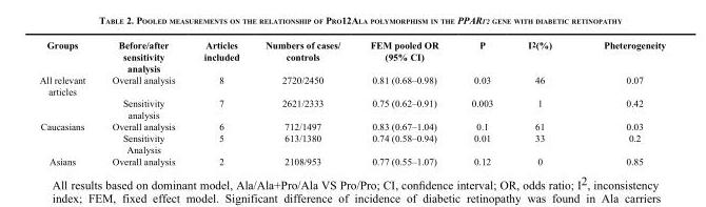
<table><thead><tr><td>Groups</td><td>Before/after sensitivity analysis</td><td>Articles included</td><td>Numbers of cases/ controls</td><td>FEM pooled OR (95% CI)</td><td>P</td><td>I<sup>2</sup>(%)</td><td>Pheterogeneity</td></tr></thead><tbody><tr><td rowspan="2">All relevant articles</td><td>Overall analysis</td><td>8</td><td>2720/2450</td><td>0.81 (0.68–0.98)</td><td>0.03</td><td>46</td><td>0.07</td></tr><tr><td>Sensitivity analysis</td><td>7</td><td>2621/2333</td><td>0.75 (0.62–0.91)</td><td>0.003</td><td>1</td><td>0.42</td></tr><tr><td rowspan="2">Caucasians</td><td>Overall analysis</td><td>6</td><td>712/1497</td><td>0.83 (0.67–1.04)</td><td>0.1</td><td>61</td><td>0.03</td></tr><tr><td>Sensitivity Analysis</td><td>5</td><td>613/1380</td><td>0.74 (0.58–0.94)</td><td>0.01</td><td>33</td><td>0.2</td></tr><tr><td>Asians</td><td>Overall analysis</td><td>2</td><td>2108/953</td><td>0.77 (0.55–1.07)</td><td>0.12</td><td>0</td><td>0.85</td></tr></tbody></table>